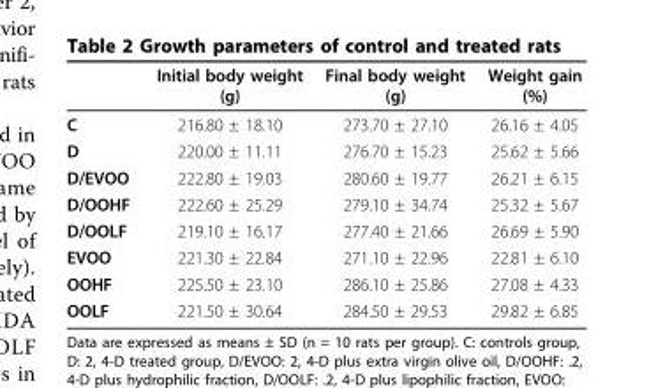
<table><thead><tr><td></td><td>Initial body weight (g)</td><td>Final body weight (g)</td><td>Weight gain (%)</td></tr></thead><tbody><tr><td>C</td><td>216.80 ± 18.10</td><td>273.70 ± 27.10</td><td>26.16 ± 4.05</td></tr><tr><td>D</td><td>220.00 ± 11.11</td><td>276.70 ± 15.23</td><td>25.62 ± 5.66</td></tr><tr><td>D/EVOO</td><td>222.80 ± 19.03</td><td>280.60 ± 19.77</td><td>26.21 ± 6.15</td></tr><tr><td>D/OOHF</td><td>222.60 ± 25.29</td><td>279.10 ± 34.74</td><td>25.32 ± 5.67</td></tr><tr><td>D/OOLF</td><td>219.10 ± 16.17</td><td>277.40 ± 21.66</td><td>26.69 ± 5.90</td></tr><tr><td>EVOO</td><td>221.30 ± 22.84</td><td>271.10 ± 22.96</td><td>22.81 ± 6.10</td></tr><tr><td>OOHF</td><td>225.50 ± 23.10</td><td>286.10 ± 25.86</td><td>27.08 ± 4.33</td></tr><tr><td>OOLF</td><td>221.50 ± 30.64</td><td>284.50 ± 29.53</td><td>29.82 ± 6.85</td></tr></tbody></table>